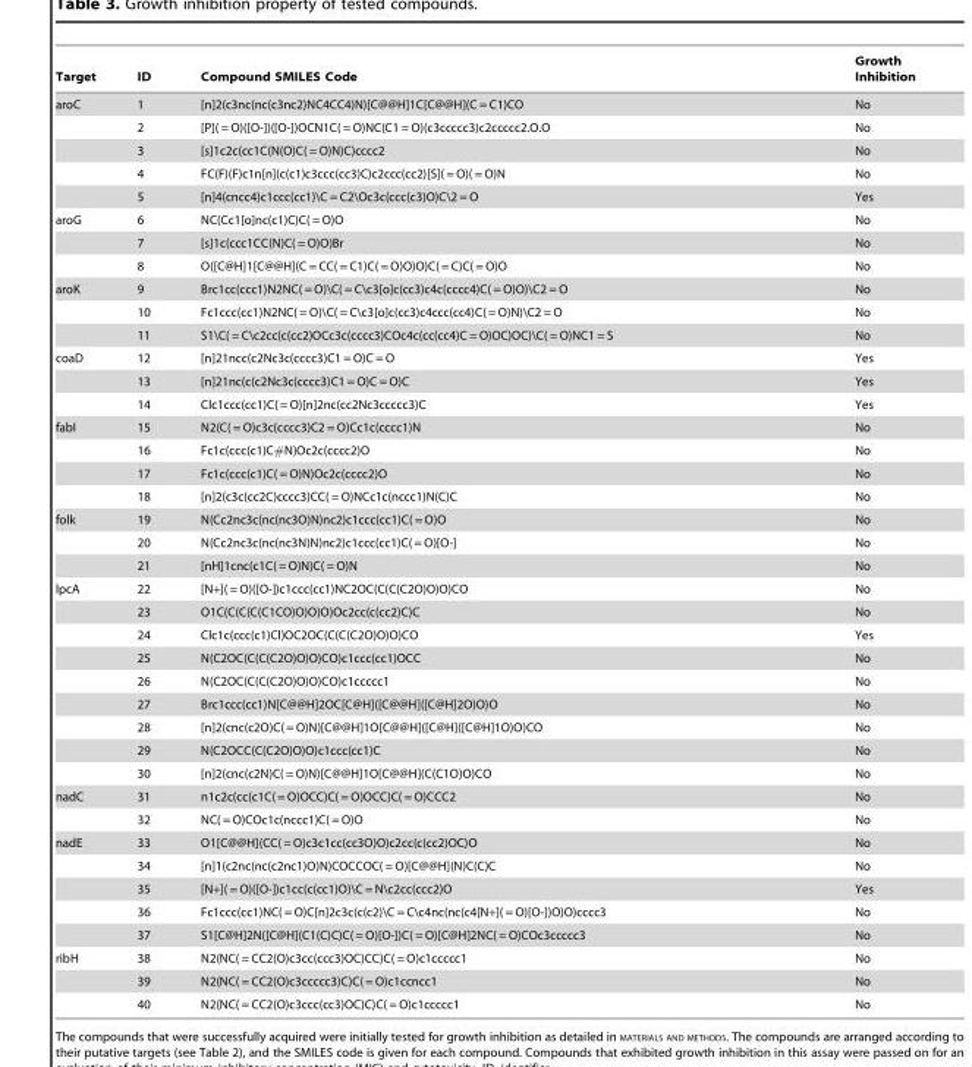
<table><thead><tr><td>Target</td><td>ID</td><td>Compound SMILES Code</td><td>Growth Inhibition</td></tr></thead><tbody><tr><td rowspan="5">aroC</td><td>1</td><td>[n]2(c3nc(nc(c3nc2)NC4CC4)N)[C@@H]1C[C@@H](C = C1)CO</td><td>No</td></tr><tr><td>2</td><td>[P]( = O)([O-])([O-])OCN1C( = O)NC(C1 = O)(c3ccccc3)c2ccccc2.O.O</td><td>No</td></tr><tr><td>3</td><td>[s]1c2c(cc1C(N(O)C( = O)N)C)cccc2</td><td>No</td></tr><tr><td>4</td><td>FC(F)(F)c1n[n](c(c1)c3ccc(cc3)C)c2ccc(cc2)[S]( = O)( = O)N</td><td>No</td></tr><tr><td>5</td><td>[n]4(cncc4)c1ccc(cc1)\C = C2\Oc3c(ccc(c3)O)C\2 = O</td><td>Yes</td></tr><tr><td rowspan="3">aroG</td><td>6</td><td>NC(Cc1[o]nc(c1)C)C( = O)O</td><td>No</td></tr><tr><td>7</td><td>[s]1c(ccc1CC(N)C( = O)O)Br</td><td>No</td></tr><tr><td>8</td><td>O([C@H]1[C@@H](C = CC( = C1)C( = O)O)O)C( = C)C( = O)O</td><td>No</td></tr><tr><td rowspan="3">aroK</td><td>9</td><td>Brc1cc(ccc1)N2NC( = O)\C( = C\c3[o]c(cc3)c4c(cccc4)C( = O)O)\C2 = O</td><td>No</td></tr><tr><td>10</td><td>Fc1ccc(cc1)N2NC( = O)\C( = C\c3[o]c(cc3)c4ccc(cc4)C( = O)N)\C2 = O</td><td>No</td></tr><tr><td>11</td><td>S1\C( = C\c2cc(c(cc2)OCc3c(cccc3)COc4c(cc(cc4)C = O)OC)OC)\C( = O)NC1 = S</td><td>No</td></tr><tr><td rowspan="3">coaD</td><td>12</td><td>[n]21ncc(c2Nc3c(cccc3)C1 = O)C = O</td><td>Yes</td></tr><tr><td>13</td><td>[n]21nc(c(c2Nc3c(cccc3)C1 = O)C = O)C</td><td>Yes</td></tr><tr><td>14</td><td>Clc1ccc(cc1)C( = O)[n]2nc(cc2Nc3ccccc3)C</td><td>Yes</td></tr><tr><td rowspan="4">fabI</td><td>15</td><td>N2(C( = O)c3c(cccc3)C2 = O)Cc1c(cccc1)N</td><td>No</td></tr><tr><td>16</td><td>Fc1c(ccc(c1)C#N)Oc2c(cccc2)O</td><td>No</td></tr><tr><td>17</td><td>Fc1c(ccc(c1)C( = O)N)Oc2c(cccc2)O</td><td>No</td></tr><tr><td>18</td><td>[n]2(c3c(cc2C)cccc3)CC( = O)NCc1c(nccc1)N(C)C</td><td>No</td></tr><tr><td rowspan="3">folk</td><td>19</td><td>N(Cc2nc3c(nc(nc3O)N)nc2)c1ccc(cc1)C( = O)O</td><td>No</td></tr><tr><td>20</td><td>N(Cc2nc3c(nc(nc3N)N)nc2)c1ccc(cc1)C( = O)[O-]</td><td>No</td></tr><tr><td>21</td><td>[nH]1cnc(c1C( = O)N)C( = O)N</td><td>No</td></tr><tr><td rowspan="9">lpcA</td><td>22</td><td>[N+]( = O)([O-])c1ccc(cc1)NC2OC(C(C(C2O)O)O)CO</td><td>No</td></tr><tr><td>23</td><td>O1C(C(C(C(C1CO)O)O)O)Oc2cc(c(cc2)C)C</td><td>No</td></tr><tr><td>24</td><td>Clc1c(ccc(c1)Cl)OC2OC(C(C(C2O)O)O)CO</td><td>Yes</td></tr><tr><td>25</td><td>N(C2OC(C(C(C2O)O)O)CO)c1ccc(cc1)OCC</td><td>No</td></tr><tr><td>26</td><td>N(C2OC(C(C(C2O)O)O)CO)c1ccccc1</td><td>No</td></tr><tr><td>27</td><td>Brc1ccc(cc1)N[C@@H]2OC[C@H]([C@@H]([C@H]2O)O)O</td><td>No</td></tr><tr><td>28</td><td>[n]2(cnc(c2O)C( = O)N)[C@@H]1O[C@@H]([C@H]([C@H]1O)O)CO</td><td>No</td></tr><tr><td>29</td><td>N(C2OCC(C(C2O)O)O)c1ccc(cc1)C</td><td>No</td></tr><tr><td>30</td><td>[n]2(cnc(c2N)C( = O)N)[C@@H]1O[C@@H](C(C1O)O)CO</td><td>No</td></tr><tr><td rowspan="2">nadC</td><td>31</td><td>n1c2c(cc(c1C( = O)OCC)C( = O)OCC)C( = O)CCC2</td><td>No</td></tr><tr><td>32</td><td>NC( = O)COc1c(nccc1)C( = O)O</td><td>No</td></tr><tr><td rowspan="5">nadE</td><td>33</td><td>O1[C@@H](CC( = O)c3c1cc(cc3O)O)c2cc(c(cc2)OC)O</td><td>No</td></tr><tr><td>34</td><td>[n]1(c2nc(nc(c2nc1)O)N)COCCOC( = O)[C@@H](N)C(C)C</td><td>No</td></tr><tr><td>35</td><td>[N+]( = O)([O-])c1cc(c(cc1)O)\C = N\c2cc(ccc2)O</td><td>Yes</td></tr><tr><td>36</td><td>Fc1ccc(cc1)NC( = O)C[n]2c3c(c(c2)\C = C\c4nc(nc(c4[N+]( = O)[O-])O)O)cccc3</td><td>No</td></tr><tr><td>37</td><td>S1[C@H]2N([C@H](C1(C)C)C( = O)[O-])C( = O)[C@H]2NC( = O)COc3ccccc3</td><td>No</td></tr><tr><td rowspan="3">ribH</td><td>38</td><td>N2(NC( = CC2(O)c3cc(ccc3)OC)CC)C( = O)c1ccccc1</td><td>No</td></tr><tr><td>39</td><td>N2(NC( = CC2(O)c3ccccc3)C)C( = O)c1ccncc1</td><td>No</td></tr><tr><td>40</td><td>N2(NC( = CC2(O)c3ccc(cc3)OC)C)C( = O)c1ccccc1</td><td>No</td></tr></tbody></table>